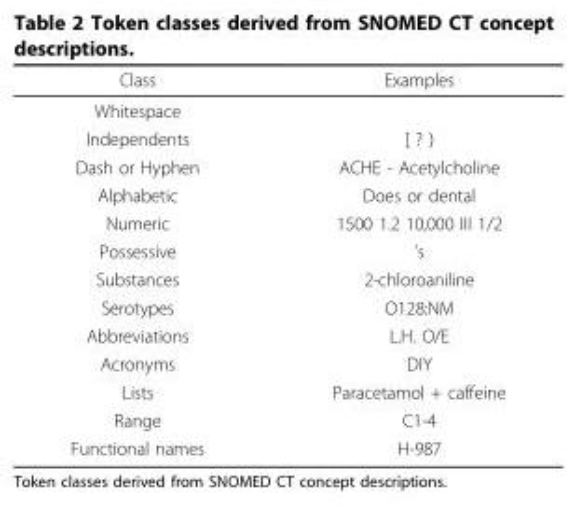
<table><thead><tr><td>Class</td><td>Examples</td></tr></thead><tbody><tr><td colspan="2">Whitespace</td></tr><tr><td>Independents</td><td>[ ? )</td></tr><tr><td>Dash or Hyphen</td><td>ACHE - Acetylcholine</td></tr><tr><td>Alphabetic</td><td>Does or dental</td></tr><tr><td>Numeric</td><td>1500 1.2 10,000 III 1/2</td></tr><tr><td>Possessive</td><td>’s</td></tr><tr><td>Substances</td><td>2-chloroaniline</td></tr><tr><td>Serotypes</td><td>O128:NM</td></tr><tr><td>Abbreviations</td><td>L.H. O/E</td></tr><tr><td>Acronyms</td><td>DIY</td></tr><tr><td>Lists</td><td>Paracetamol + caffeine</td></tr><tr><td>Range</td><td>C1-4</td></tr><tr><td>Functional names</td><td>H-987</td></tr></tbody></table>